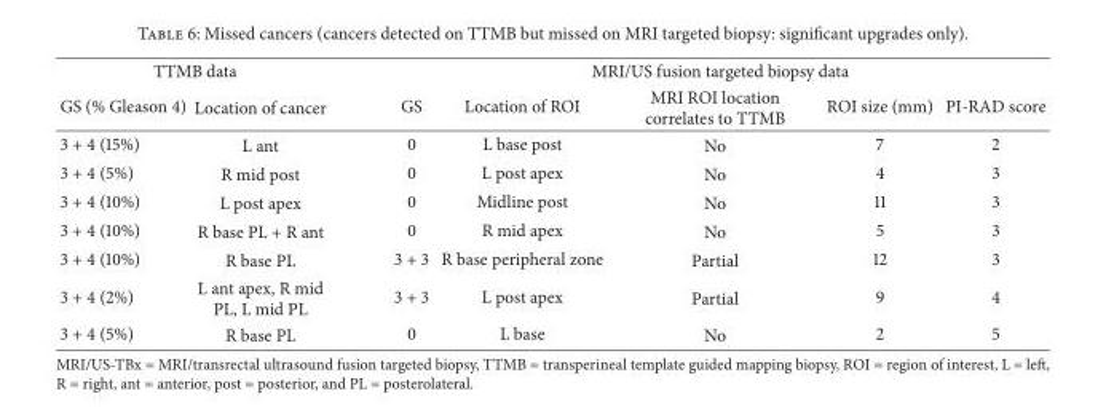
<table><thead><tr><td colspan="2">TTMB data</td><td colspan="5">MRI/US fusion targeted biopsy data</td></tr><tr><td>GS (% Gleason 4)</td><td>Location of cancer</td><td>GS</td><td>Location of ROI</td><td>MRI ROI location correlates to TTMB</td><td>ROI size (mm)</td><td>PI-RAD score</td></tr></thead><tbody><tr><td>3 + 4 (15%)</td><td>L ant</td><td>0</td><td>L base post</td><td>No</td><td>7</td><td>2</td></tr><tr><td>3 + 4 (5%)</td><td>R mid post</td><td>0</td><td>L post apex</td><td>No</td><td>4</td><td>3</td></tr><tr><td>3 + 4 (10%)</td><td>L post apex</td><td>0</td><td>Midline post</td><td>No</td><td>11</td><td>3</td></tr><tr><td>3 + 4 (10%)</td><td>R base PL + R ant</td><td>0</td><td>R mid apex</td><td>No</td><td>5</td><td>3</td></tr><tr><td>3 + 4 (10%)</td><td>R base PL</td><td>3 + 3</td><td>R base peripheral zone</td><td>Partial</td><td>12</td><td>3</td></tr><tr><td>3 + 4 (2%)</td><td>L ant apex, R mid PL, L mid PL</td><td>3 + 3</td><td>L post apex</td><td>Partial</td><td>9</td><td>4</td></tr><tr><td>3 + 4 (5%)</td><td>R base PL</td><td>0</td><td>L base</td><td>No</td><td>2</td><td>5</td></tr></tbody></table>